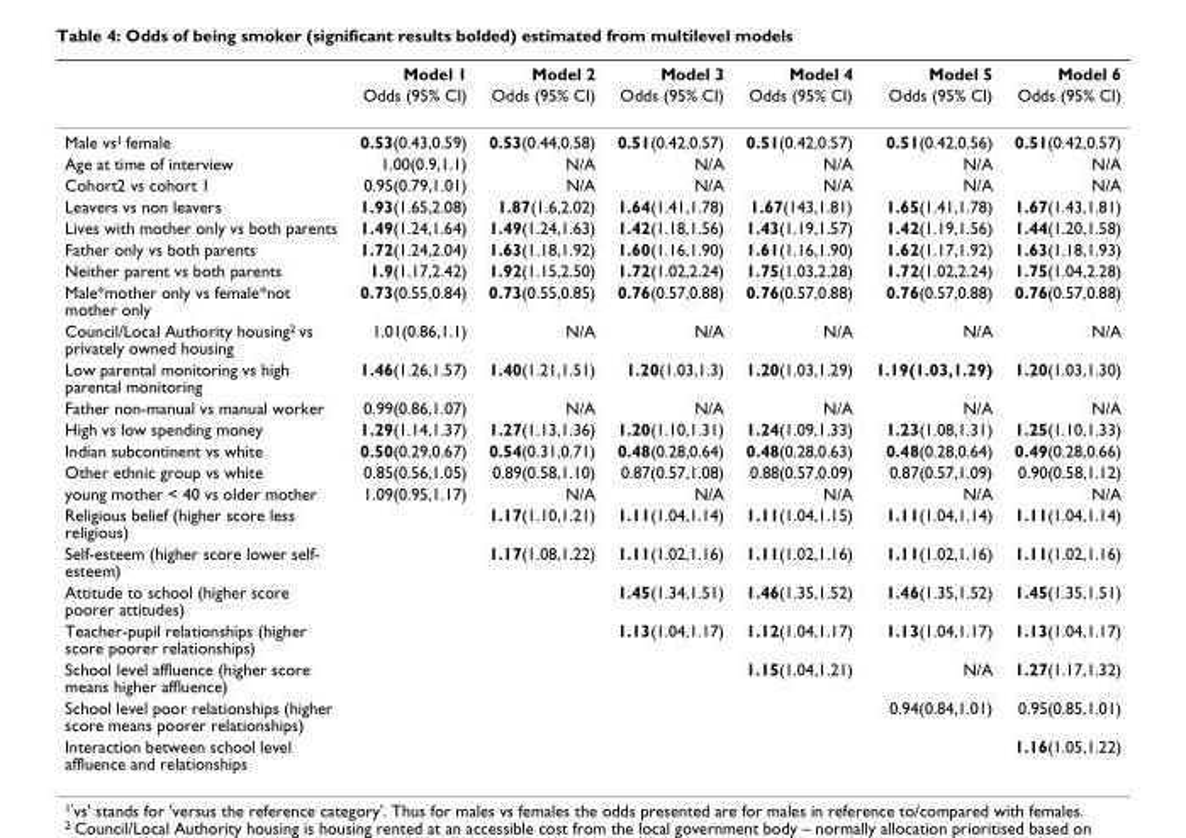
<table><thead><tr><td rowspan="2"></td><td rowspan="2">Model 1 Odds (95% CI)</td><td rowspan="2">Model 2 Odds (95% CI)</td><td rowspan="2">Model 3 Odds (95% CI)</td><td rowspan="2">Model 4 Odds (95% CI)</td><td rowspan="2">Model 5 Odds (95% CI)</td><td rowspan="2">Model 6 Odds (95% CI)</td></tr><tr></tr></thead><tbody><tr><td>Male vs<sup>1</sup> female</td><td>0.53(0.43,0.59)</td><td>0.53(0.44,0.58)</td><td>0.51(0.42,0.57)</td><td>0.51(0.42,0.57)</td><td>0.51(0.42,0.56)</td><td>0.51(0.42,0.57)</td></tr><tr><td>Age at time of interview</td><td>1.00(0.9,1.1)</td><td>N/A</td><td>N/A</td><td>N/A</td><td>N/A</td><td>N/A</td></tr><tr><td>Cohort2 vs cohort 1</td><td>0.95(0.79,1.01)</td><td>N/A</td><td>N/A</td><td>N/A</td><td>N/A</td><td>N/A</td></tr><tr><td>Leavers vs non leavers</td><td>1.93(1.65,2.08)</td><td>1.87(1.6,2.02)</td><td>1.64(1.41,1.78)</td><td>1.67(143,1.81)</td><td>1.65(1.41,1.78)</td><td>1.67(1.43,1.81)</td></tr><tr><td>Lives with mother only vs both parents</td><td>1.49(1.24,1.64)</td><td>1.49(1.24,1.63)</td><td>1.42(1.18,1.56)</td><td>1.43(1.19,1.57)</td><td>1.42(1.19,1.56)</td><td>1.44(1.20,1.58)</td></tr><tr><td>Father only vs both parents</td><td>1.72(1.24,2.04)</td><td>1.63(1.18,1.92)</td><td>1.60(1.16,1.90)</td><td>1.61(1.16,1.90)</td><td>1.62(1.17,1.92)</td><td>1.63(1.18,1.93)</td></tr><tr><td>Neither parent vs both parents</td><td>1.9(1.17,2.42)</td><td>1.92(1.15,2.50)</td><td>1.72(1.02,2.24)</td><td>1.75(1.03,2.28)</td><td>1.72(1.02,2.24)</td><td>1.75(1.04,2.28)</td></tr><tr><td>Male*mother only vs female*not mother only</td><td>0.73(0.55,0.84)</td><td>0.73(0.55,0.85)</td><td>0.76(0.57,0.88)</td><td>0.76(0.57,0.88)</td><td>0.76(0.57,0.88)</td><td>0.76(0.57,0.88)</td></tr><tr><td>Council/Local Authority housing<sup>2</sup> vs privately owned housing</td><td>1.01(0.86,1.1)</td><td>N/A</td><td>N/A</td><td>N/A</td><td>N/A</td><td>N/A</td></tr><tr><td>Low parental monitoring vs high parental monitoring</td><td>1.46(1.26,1.57)</td><td>1.40(1.21,1.51)</td><td>1.20(1.03,1.3)</td><td>1.20(1.03,1.29)</td><td>1.19(1.03,1.29)</td><td>1.20(1.03,1.30)</td></tr><tr><td>Father non-manual vs manual worker</td><td>0.99(0.86,1.07)</td><td>N/A</td><td>N/A</td><td>N/A</td><td>N/A</td><td>N/A</td></tr><tr><td>High vs low spending money</td><td>1.29(1.14,1.37)</td><td>1.27(1.13,1.36)</td><td>1.20(1.10,1.31)</td><td>1.24(1.09,1.33)</td><td>1.23(1.08,1.31)</td><td>1.25(1.10,1.33)</td></tr><tr><td>Indian subcontinent vs white</td><td>0.50(0.29,0.67)</td><td>0.54(0.31,0.71)</td><td>0.48(0.28,0.64)</td><td>0.48(0.28,0.63)</td><td>0.48(0.28,0.64)</td><td>0.49(0.28,0.66)</td></tr><tr><td>Other ethnic group vs white</td><td>0.85(0.56,1.05)</td><td>0.89(0.58,1.10)</td><td>0.87(0.57,1.08)</td><td>0.88(0.57,0.09)</td><td>0.87(0.57,1.09)</td><td>0.90(0.58,1.12)</td></tr><tr><td>young mother &lt; 40 vs older mother</td><td>1.09(0.95,1.17)</td><td>N/A</td><td>N/A</td><td>N/A</td><td>N/A</td><td>N/A</td></tr><tr><td>Religious belief (higher score less religious)</td><td></td><td>1.17(1.10,1.21)</td><td>1.11(1.04,1.14)</td><td>1.11(1.04,1.15)</td><td>1.11(1.04,1.14)</td><td>1.11(1.04,1.14)</td></tr><tr><td>Self-esteem (higher score lower self- esteem)</td><td></td><td>1.17(1.08,1.22)</td><td>1.11(1.02,1.16)</td><td>1.11(1.02,1.16)</td><td>1.11(1.02,1.16)</td><td>1.11(1.02,1.16)</td></tr><tr><td>Attitude to school (higher score poorer attitudes)</td><td></td><td></td><td>1.45(1.34,1.51)</td><td>1.46(1.35,1.52)</td><td>1.46(1.35,1.52)</td><td>1.45(1.35,1.51)</td></tr><tr><td>Teacher-pupil relationships (higher score poorer relationships)</td><td></td><td></td><td>1.13(1.04,1.17)</td><td>1.12(1.04,1.17)</td><td>1.13(1.04,1.17)</td><td>1.13(1.04,1.17)</td></tr><tr><td>School level affluence (higher score means higher affluence)</td><td></td><td></td><td></td><td>1.15(1.04,1.21)</td><td>N/A</td><td>1.27(1.17,1.32)</td></tr><tr><td>School level poor relationships (higher score means poorer relationships)</td><td></td><td></td><td></td><td></td><td>0.94(0.84,1.01)</td><td>0.95(0.85,1.01)</td></tr><tr><td>Interaction between school level affluence and relationships</td><td></td><td></td><td></td><td></td><td></td><td>1.16(1.05,1.22)</td></tr></tbody></table>